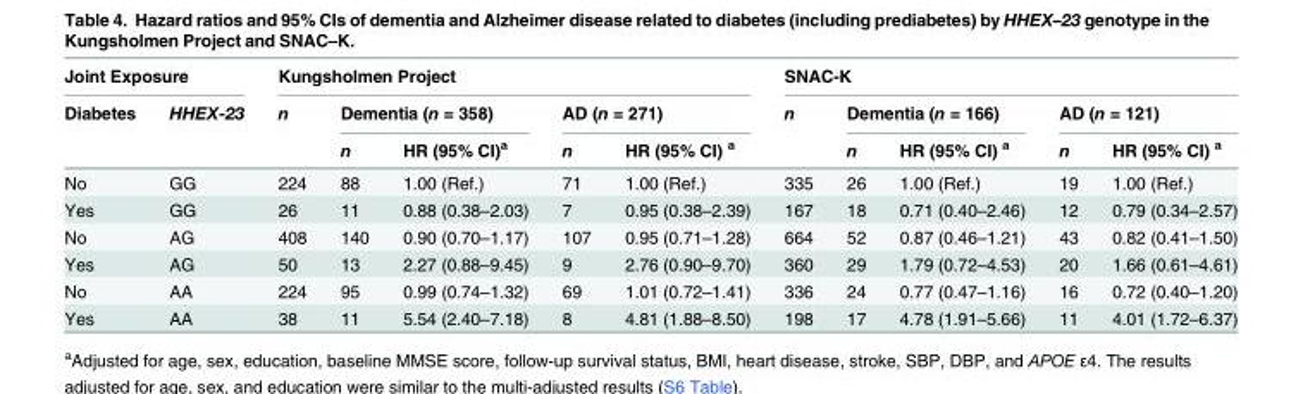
<table><thead><tr><td colspan="2">Joint Exposure</td><td colspan="5">Kungsholmen Project</td><td colspan="5">SNAC-K</td></tr><tr><td rowspan="2">Diabetes</td><td rowspan="2">HHEX-23</td><td rowspan="2">n</td><td colspan="2">Dementia (n = 358)</td><td colspan="2">AD (n = 271)</td><td rowspan="2">n</td><td colspan="2">Dementia (n = 166)</td><td colspan="2">AD (n = 121)</td></tr><tr><td>n</td><td>HR (95% CI)<sup>a</sup></td><td>n</td><td>HR (95% CI) <sup>a</sup></td><td>n</td><td>HR (95% CI) <sup>a</sup></td><td>n</td><td>HR (95% CI) <sup>a</sup></td></tr></thead><tbody><tr><td>No</td><td>GG</td><td>224</td><td>88</td><td>1.00 (Ref.)</td><td>71</td><td>1.00 (Ref.)</td><td>335</td><td>26</td><td>1.00 (Ref.)</td><td>19</td><td>1.00 (Ref.)</td></tr><tr><td>Yes</td><td>GG</td><td>26</td><td>11</td><td>0.88 (0.38–2.03)</td><td>7</td><td>0.95 (0.38–2.39)</td><td>167</td><td>18</td><td>0.71 (0.40–2.46)</td><td>12</td><td>0.79 (0.34–2.57)</td></tr><tr><td>No</td><td>AG</td><td>408</td><td>140</td><td>0.90 (0.70–1.17)</td><td>107</td><td>0.95 (0.71–1.28)</td><td>664</td><td>52</td><td>0.87 (0.46–1.21)</td><td>43</td><td>0.82 (0.41–1.50)</td></tr><tr><td>Yes</td><td>AG</td><td>50</td><td>13</td><td>2.27 (0.88–9.45)</td><td>9</td><td>2.76 (0.90–9.70)</td><td>360</td><td>29</td><td>1.79 (0.72–4.53)</td><td>20</td><td>1.66 (0.61–4.61)</td></tr><tr><td>No</td><td>AA</td><td>224</td><td>95</td><td>0.99 (0.74–1.32)</td><td>69</td><td>1.01 (0.72–1.41)</td><td>336</td><td>24</td><td>0.77 (0.47–1.16)</td><td>16</td><td>0.72 (0.40–1.20)</td></tr><tr><td>Yes</td><td>AA</td><td>38</td><td>11</td><td>5.54 (2.40–7.18)</td><td>8</td><td>4.81 (1.88–8.50)</td><td>198</td><td>17</td><td>4.78 (1.91–5.66)</td><td>11</td><td>4.01 (1.72–6.37)</td></tr></tbody></table>